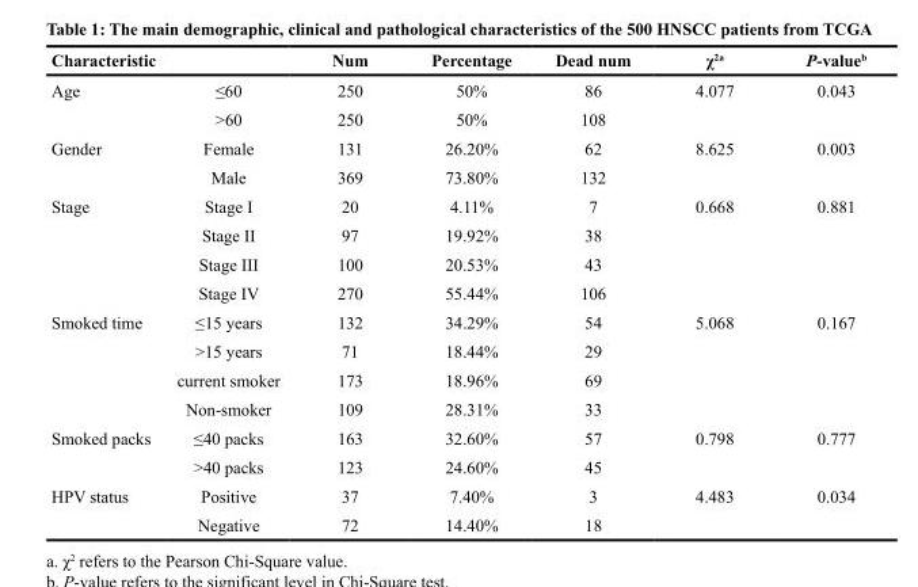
<table><thead><tr><td>Characteristic</td><td></td><td>Num</td><td>Percentage</td><td>Dead num</td><td>χ<sup>2a</sup></td><td>P-value<sup>b</sup></td></tr></thead><tbody><tr><td rowspan="2">Age</td><td>≤60</td><td>250</td><td>50%</td><td>86</td><td>4.077</td><td>0.043</td></tr><tr><td>&gt;60</td><td>250</td><td>50%</td><td>108</td><td></td><td></td></tr><tr><td rowspan="2">Gender</td><td>Female</td><td>131</td><td>26.20%</td><td>62</td><td>8.625</td><td>0.003</td></tr><tr><td>Male</td><td>369</td><td>73.80%</td><td>132</td><td></td><td></td></tr><tr><td rowspan="4">Stage</td><td>Stage I</td><td>20</td><td>4.11%</td><td>7</td><td>0.668</td><td>0.881</td></tr><tr><td>Stage II</td><td>97</td><td>19.92%</td><td>38</td><td></td><td></td></tr><tr><td>Stage III</td><td>100</td><td>20.53%</td><td>43</td><td></td><td></td></tr><tr><td>Stage IV</td><td>270</td><td>55.44%</td><td>106</td><td></td><td></td></tr><tr><td rowspan="4">Smoked time</td><td>≤15 years</td><td>132</td><td>34.29%</td><td>54</td><td>5.068</td><td>0.167</td></tr><tr><td>&gt;15 years</td><td>71</td><td>18.44%</td><td>29</td><td></td><td></td></tr><tr><td>current smoker</td><td>173</td><td>18.96%</td><td>69</td><td></td><td></td></tr><tr><td>Non-smoker</td><td>109</td><td>28.31%</td><td>33</td><td></td><td></td></tr><tr><td rowspan="2">Smoked packs</td><td>≤40 packs</td><td>163</td><td>32.60%</td><td>57</td><td>0.798</td><td>0.777</td></tr><tr><td>&gt;40 packs</td><td>123</td><td>24.60%</td><td>45</td><td></td><td></td></tr><tr><td rowspan="2">HPV status</td><td>Positive</td><td>37</td><td>7.40%</td><td>3</td><td>4.483</td><td>0.034</td></tr><tr><td>Negative</td><td>72</td><td>14.40%</td><td>18</td><td></td><td></td></tr></tbody></table>